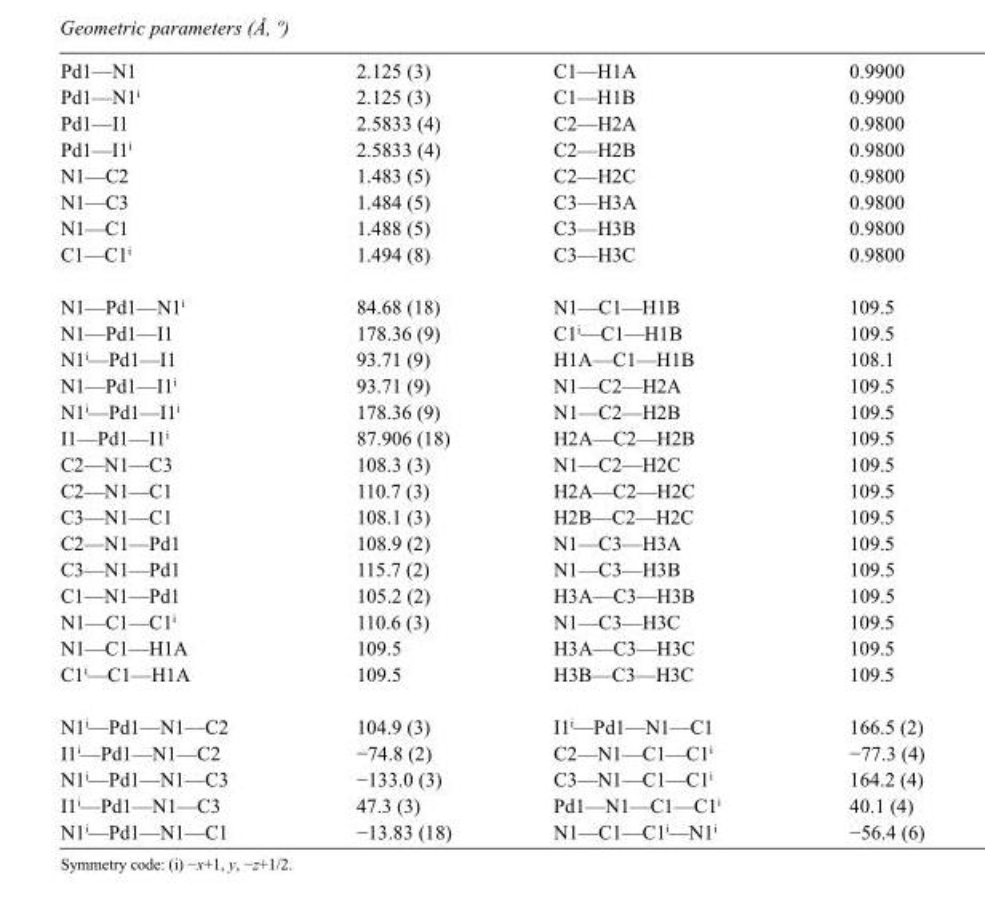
<table><tbody><tr><td>Pd1—N1</td><td>2.125 (3)</td><td>C1—H1A</td><td>0.9900</td></tr><tr><td>Pd1—N1<sup>i</sup></td><td>2.125 (3)</td><td>C1—H1B</td><td>0.9900</td></tr><tr><td>Pd1—I1</td><td>2.5833 (4)</td><td>C2—H2A</td><td>0.9800</td></tr><tr><td>Pd1—I1<sup>i</sup></td><td>2.5833 (4)</td><td>C2—H2B</td><td>0.9800</td></tr><tr><td>N1—C2</td><td>1.483 (5)</td><td>C2—H2C</td><td>0.9800</td></tr><tr><td>N1—C3</td><td>1.484 (5)</td><td>C3—H3A</td><td>0.9800</td></tr><tr><td>N1—C1</td><td>1.488 (5)</td><td>C3—H3B</td><td>0.9800</td></tr><tr><td>C1—C1<sup>i</sup></td><td>1.494 (8)</td><td>C3—H3C</td><td>0.9800</td></tr><tr><td>N1—Pd1—N1<sup>i</sup></td><td>84.68 (18)</td><td>N1—C1—H1B</td><td>109.5</td></tr><tr><td>N1—Pd1—I1</td><td>178.36 (9)</td><td>C1<sup>i</sup>—C1—H1B</td><td>109.5</td></tr><tr><td>N1<sup>i</sup>—Pd1—I1</td><td>93.71 (9)</td><td>H1A—C1—H1B</td><td>108.1</td></tr><tr><td>N1—Pd1—I1<sup>i</sup></td><td>93.71 (9)</td><td>N1—C2—H2A</td><td>109.5</td></tr><tr><td>N1<sup>i</sup>—Pd1—I1<sup>i</sup></td><td>178.36 (9)</td><td>N1—C2—H2B</td><td>109.5</td></tr><tr><td>I1—Pd1—I1<sup>i</sup></td><td>87.906 (18)</td><td>H2A—C2—H2B</td><td>109.5</td></tr><tr><td>C2—N1—C3</td><td>108.3 (3)</td><td>N1—C2—H2C</td><td>109.5</td></tr><tr><td>C2—N1—C1</td><td>110.7 (3)</td><td>H2A—C2—H2C</td><td>109.5</td></tr><tr><td>C3—N1—C1</td><td>108.1 (3)</td><td>H2B—C2—H2C</td><td>109.5</td></tr><tr><td>C2—N1—Pd1</td><td>108.9 (2)</td><td>N1—C3—H3A</td><td>109.5</td></tr><tr><td>C3—N1—Pd1</td><td>115.7 (2)</td><td>N1—C3—H3B</td><td>109.5</td></tr><tr><td>C1—N1—Pd1</td><td>105.2 (2)</td><td>H3A—C3—H3B</td><td>109.5</td></tr><tr><td>N1—C1—C1<sup>i</sup></td><td>110.6 (3)</td><td>N1—C3—H3C</td><td>109.5</td></tr><tr><td>N1—C1—H1A</td><td>109.5</td><td>H3A—C3—H3C</td><td>109.5</td></tr><tr><td>C1<sup>i</sup>—C1—H1A</td><td>109.5</td><td>H3B—C3—H3C</td><td>109.5</td></tr><tr><td>N1<sup>i</sup>—Pd1—N1—C2</td><td>104.9 (3)</td><td>I1<sup>i</sup>—Pd1—N1—C1</td><td>166.5 (2)</td></tr><tr><td>I1<sup>i</sup>—Pd1—N1—C2</td><td>−74.8 (2)</td><td>C2—N1—C1—C1<sup>i</sup></td><td>−77.3 (4)</td></tr><tr><td>N1<sup>i</sup>—Pd1—N1—C3</td><td>−133.0 (3)</td><td>C3—N1—C1—C1<sup>i</sup></td><td>164.2 (4)</td></tr><tr><td>I1<sup>i</sup>—Pd1—N1—C3</td><td>47.3 (3)</td><td>Pd1—N1—C1—C1<sup>i</sup></td><td>40.1 (4)</td></tr><tr><td>N1<sup>i</sup>—Pd1—N1—C1</td><td>−13.83 (18)</td><td>N1—C1—C1<sup>i</sup>—N1<sup>i</sup></td><td>−56.4 (6)</td></tr></tbody></table>